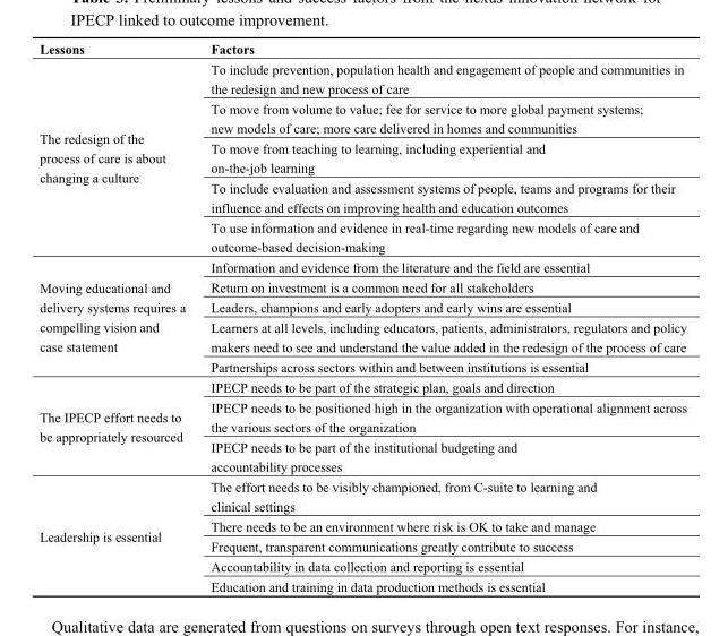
<table><thead><tr><td>Lessons</td><td>Factors</td></tr></thead><tbody><tr><td rowspan="5">The redesign of the process of care is about changing a culture</td><td>To include prevention, population health and engagement of people and communities in the redesign and new process of care</td></tr><tr><td>To move from volume to value; fee for service to more global payment systems; new models of care; more care delivered in homes and communities</td></tr><tr><td>To move from teaching to learning, including experiential and on-the-job learning</td></tr><tr><td>To include evaluation and assessment systems of people, teams and programs for their influence and effects on improving health and education outcomes</td></tr><tr><td>To use information and evidence in real-time regarding new models of care and outcome-based decision-making</td></tr><tr><td rowspan="5">Moving educational and delivery systems requires a compelling vision and case statement</td><td>Information and evidence from the literature and the field are essential</td></tr><tr><td>Return on investment is a common need for all stakeholders</td></tr><tr><td>Leaders, champions and early adopters and early wins are essential</td></tr><tr><td>Learners at all levels, including educators, patients, administrators, regulators and policy makers need to see and understand the value added in the redesign of the process of care</td></tr><tr><td>Partnerships across sectors within and between institutions is essential</td></tr><tr><td rowspan="3">The IPECP effort needs to be appropriately resourced</td><td>IPECP needs to be part of the strategic plan, goals and direction</td></tr><tr><td>IPECP needs to be positioned high in the organization with operational alignment across the various sectors of the organization</td></tr><tr><td>IPECP needs to be part of the institutional budgeting and accountability processes</td></tr><tr><td rowspan="5">Leadership is essential</td><td>The effort needs to be visibly championed, from C-suite to learning and clinical settings</td></tr><tr><td>There needs to be an environment where risk is OK to take and manage</td></tr><tr><td>Frequent, transparent communications greatly contribute to success</td></tr><tr><td>Accountability in data collection and reporting is essential</td></tr><tr><td>Education and training in data production methods is essential</td></tr></tbody></table>